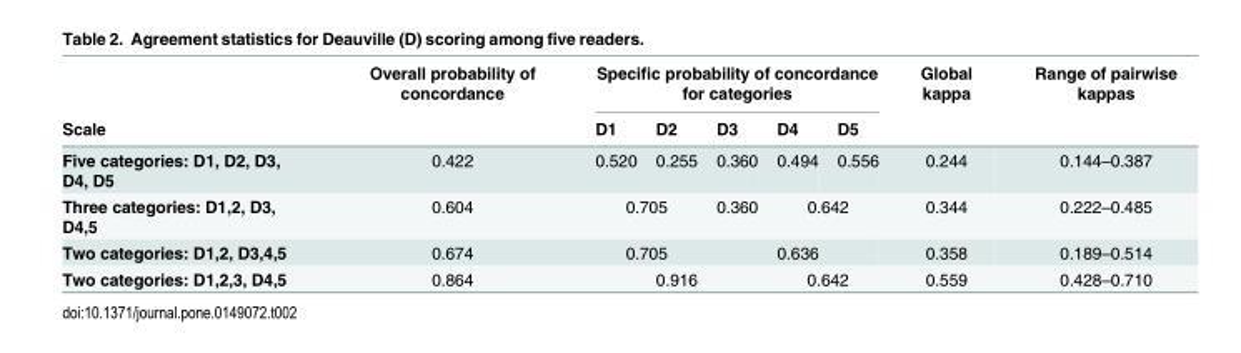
<table><thead><tr><td rowspan="2">Scale</td><td rowspan="2">Overall probability of concordance</td><td colspan="5">Specific probability of concordance for categories</td><td rowspan="2">Global kappa</td><td rowspan="2">Range of pairwise kappas</td></tr><tr><td>D1</td><td>D2</td><td>D3</td><td>D4</td><td>D5</td></tr></thead><tbody><tr><td>Five categories: D1, D2, D3, D4, D5</td><td>0.422</td><td>0.520</td><td>0.255</td><td>0.360</td><td>0.494</td><td>0.556</td><td>0.244</td><td>0.144–0.387</td></tr><tr><td>Three categories: D1,2, D3, D4,5</td><td>0.604</td><td colspan="2">0.705</td><td>0.360</td><td colspan="2">0.642</td><td>0.344</td><td>0.222–0.485</td></tr><tr><td>Two categories: D1,2, D3,4,5</td><td>0.674</td><td colspan="2">0.705</td><td colspan="3">0.636</td><td>0.358</td><td>0.189–0.514</td></tr><tr><td>Two categories: D1,2,3, D4,5</td><td>0.864</td><td colspan="3">0.916</td><td colspan="2">0.642</td><td>0.559</td><td>0.428–0.710</td></tr></tbody></table>